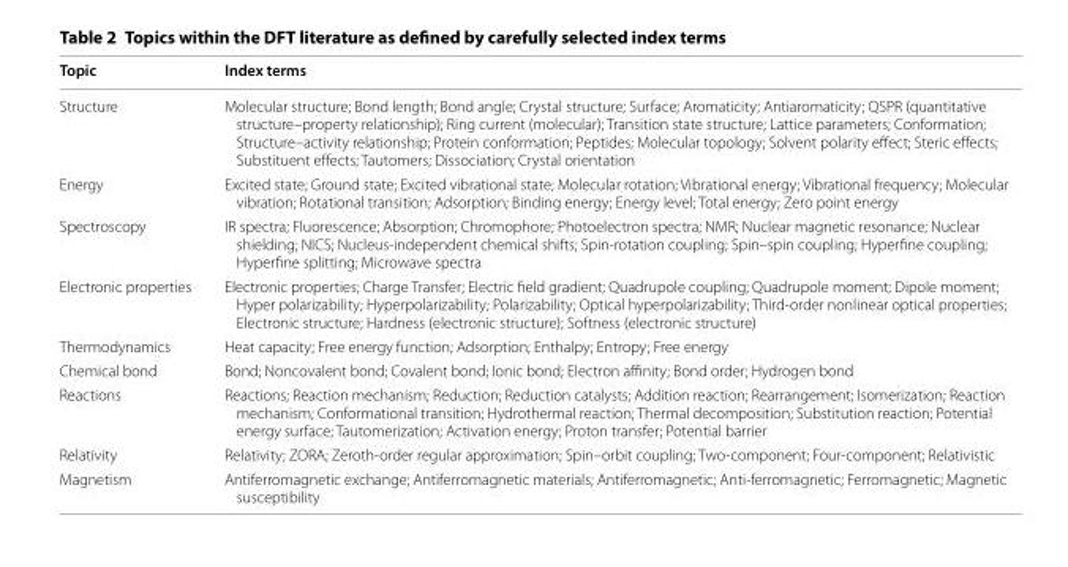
<table><thead><tr><td>Topic</td><td>Index terms</td></tr></thead><tbody><tr><td>Structure</td><td>Molecular structure; Bond length; Bond angle; Crystal structure; Surface; Aromaticity; Antiaromaticity; QSPR (quantitative structure–property relationship); Ring current (molecular); Transition state structure; Lattice parameters; Conformation; Structure–activity relationship; Protein conformation; Peptides; Molecular topology; Solvent polarity effect; Steric effects; Substituent effects; Tautomers; Dissociation; Crystal orientation</td></tr><tr><td>Energy</td><td>Excited state; Ground state; Excited vibrational state; Molecular rotation; Vibrational energy; Vibrational frequency; Molecular vibration; Rotational transition; Adsorption; Binding energy; Energy level; Total energy; Zero point energy</td></tr><tr><td>Spectroscopy</td><td>IR spectra; Fluorescence; Absorption; Chromophore; Photoelectron spectra; NMR; Nuclear magnetic resonance; Nuclear shielding; NICS; Nucleus-independent chemical shifts; Spin-rotation coupling; Spin–spin coupling; Hyperfine coupling; Hyperfine splitting; Microwave spectra</td></tr><tr><td>Electronic properties</td><td>Electronic properties; Charge Transfer; Electric field gradient; Quadrupole coupling; Quadrupole moment; Dipole moment; Hyper polarizability; Hyperpolarizability; Polarizability; Optical hyperpolarizability; Third-order nonlinear optical properties; Electronic structure; Hardness (electronic structure); Softness (electronic structure)</td></tr><tr><td>Thermodynamics</td><td>Heat capacity; Free energy function; Adsorption; Enthalpy; Entropy; Free energy</td></tr><tr><td>Chemical bond</td><td>Bond; Noncovalent bond; Covalent bond; Ionic bond; Electron affinity; Bond order; Hydrogen bond</td></tr><tr><td>Reactions</td><td>Reactions; Reaction mechanism; Reduction; Reduction catalysts; Addition reaction; Rearrangement; Isomerization; Reaction mechanism; Conformational transition; Hydrothermal reaction; Thermal decomposition; Substitution reaction; Potential energy surface; Tautomerization; Activation energy; Proton transfer; Potential barrier</td></tr><tr><td>Relativity</td><td>Relativity; ZORA; Zeroth-order regular approximation; Spin–orbit coupling; Two-component; Four-component; Relativistic</td></tr><tr><td>Magnetism</td><td>Antiferromagnetic exchange; Antiferromagnetic materials; Antiferromagnetic; Anti-ferromagnetic; Ferromagnetic; Magnetic susceptibility</td></tr></tbody></table>